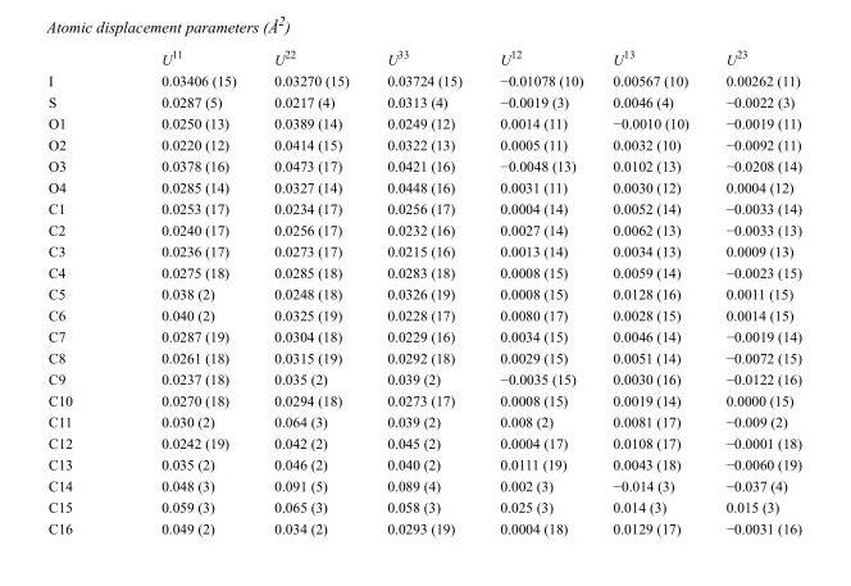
<table><thead><tr><td></td><td>U<sup>11</sup></td><td>U<sup>22</sup></td><td>U<sup>33</sup></td><td>U<sup>12</sup></td><td>U<sup>13</sup></td><td>U<sup>23</sup></td></tr></thead><tbody><tr><td>I</td><td>0.03406 (15)</td><td>0.03270 (15)</td><td>0.03724 (15)</td><td>−0.01078 (10)</td><td>0.00567 (10)</td><td>0.00262 (11)</td></tr><tr><td>S</td><td>0.0287 (5)</td><td>0.0217 (4)</td><td>0.0313 (4)</td><td>−0.0019 (3)</td><td>0.0046 (4)</td><td>−0.0022 (3)</td></tr><tr><td>O1</td><td>0.0250 (13)</td><td>0.0389 (14)</td><td>0.0249 (12)</td><td>0.0014 (11)</td><td>−0.0010 (10)</td><td>−0.0019 (11)</td></tr><tr><td>O2</td><td>0.0220 (12)</td><td>0.0414 (15)</td><td>0.0322 (13)</td><td>0.0005 (11)</td><td>0.0032 (10)</td><td>−0.0092 (11)</td></tr><tr><td>O3</td><td>0.0378 (16)</td><td>0.0473 (17)</td><td>0.0421 (16)</td><td>−0.0048 (13)</td><td>0.0102 (13)</td><td>−0.0208 (14)</td></tr><tr><td>O4</td><td>0.0285 (14)</td><td>0.0327 (14)</td><td>0.0448 (16)</td><td>0.0031 (11)</td><td>0.0030 (12)</td><td>0.0004 (12)</td></tr><tr><td>C1</td><td>0.0253 (17)</td><td>0.0234 (17)</td><td>0.0256 (17)</td><td>0.0004 (14)</td><td>0.0052 (14)</td><td>−0.0033 (14)</td></tr><tr><td>C2</td><td>0.0240 (17)</td><td>0.0256 (17)</td><td>0.0232 (16)</td><td>0.0027 (14)</td><td>0.0062 (13)</td><td>−0.0033 (13)</td></tr><tr><td>C3</td><td>0.0236 (17)</td><td>0.0273 (17)</td><td>0.0215 (16)</td><td>0.0013 (14)</td><td>0.0034 (13)</td><td>0.0009 (13)</td></tr><tr><td>C4</td><td>0.0275 (18)</td><td>0.0285 (18)</td><td>0.0283 (18)</td><td>0.0008 (15)</td><td>0.0059 (14)</td><td>−0.0023 (15)</td></tr><tr><td>C5</td><td>0.038 (2)</td><td>0.0248 (18)</td><td>0.0326 (19)</td><td>0.0008 (15)</td><td>0.0128 (16)</td><td>0.0011 (15)</td></tr><tr><td>C6</td><td>0.040 (2)</td><td>0.0325 (19)</td><td>0.0228 (17)</td><td>0.0080 (17)</td><td>0.0028 (15)</td><td>0.0014 (15)</td></tr><tr><td>C7</td><td>0.0287 (19)</td><td>0.0304 (18)</td><td>0.0229 (16)</td><td>0.0034 (15)</td><td>0.0046 (14)</td><td>−0.0019 (14)</td></tr><tr><td>C8</td><td>0.0261 (18)</td><td>0.0315 (19)</td><td>0.0292 (18)</td><td>0.0029 (15)</td><td>0.0051 (14)</td><td>−0.0072 (15)</td></tr><tr><td>C9</td><td>0.0237 (18)</td><td>0.035 (2)</td><td>0.039 (2)</td><td>−0.0035 (15)</td><td>0.0030 (16)</td><td>−0.0122 (16)</td></tr><tr><td>C10</td><td>0.0270 (18)</td><td>0.0294 (18)</td><td>0.0273 (17)</td><td>0.0008 (15)</td><td>0.0019 (14)</td><td>0.0000 (15)</td></tr><tr><td>C11</td><td>0.030 (2)</td><td>0.064 (3)</td><td>0.039 (2)</td><td>0.008 (2)</td><td>0.0081 (17)</td><td>−0.009 (2)</td></tr><tr><td>C12</td><td>0.0242 (19)</td><td>0.042 (2)</td><td>0.045 (2)</td><td>0.0004 (17)</td><td>0.0108 (17)</td><td>−0.0001 (18)</td></tr><tr><td>C13</td><td>0.035 (2)</td><td>0.046 (2)</td><td>0.040 (2)</td><td>0.0111 (19)</td><td>0.0043 (18)</td><td>−0.0060 (19)</td></tr><tr><td>C14</td><td>0.048 (3)</td><td>0.091 (5)</td><td>0.089 (4)</td><td>0.002 (3)</td><td>−0.014 (3)</td><td>−0.037 (4)</td></tr><tr><td>C15</td><td>0.059 (3)</td><td>0.065 (3)</td><td>0.058 (3)</td><td>0.025 (3)</td><td>0.014 (3)</td><td>0.015 (3)</td></tr><tr><td>C16</td><td>0.049 (2)</td><td>0.034 (2)</td><td>0.0293 (19)</td><td>0.0004 (18)</td><td>0.0129 (17)</td><td>−0.0031 (16)</td></tr></tbody></table>